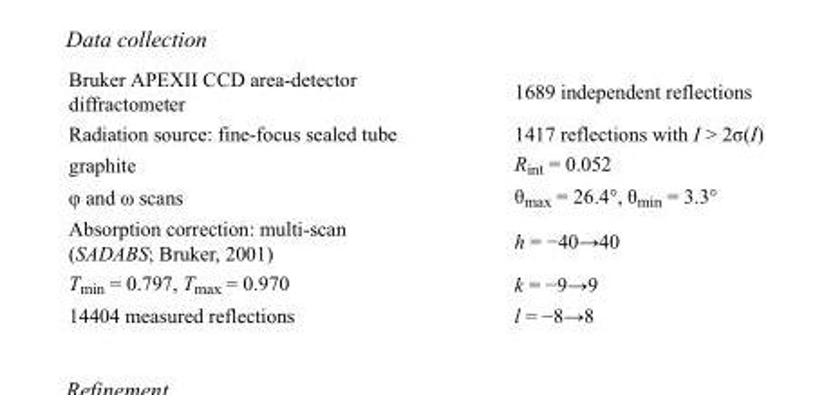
<table><tbody><tr><td>Bruker APEXII CCD area-detector diffractometer</td><td>1689 independent reflections</td></tr><tr><td>Radiation source: fine-focus sealed tube</td><td>1417 reflections with I &gt; 2σ(I)</td></tr><tr><td>graphite</td><td>R<sub>int</sub> = 0.052</td></tr><tr><td>φ and ω scans</td><td>θ<sub>max</sub> = 26.4°, θ<sub>min</sub> = 3.3°</td></tr><tr><td>Absorption correction: multi-scan (SADABS; Bruker, 2001)</td><td>h = −40→40</td></tr><tr><td>T<sub>min</sub> = 0.797, T<sub>max</sub> = 0.970</td><td>k = −9→9</td></tr><tr><td>14404 measured reflections</td><td>l = −8→8</td></tr></tbody></table>